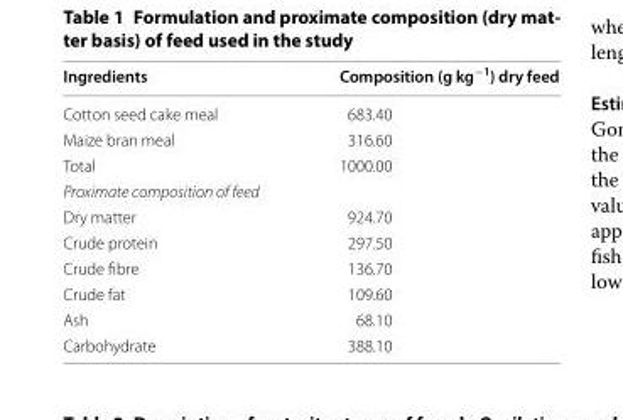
<table><thead><tr><td>Ingredients</td><td>Composition (g kg<sup>−1</sup>) dry feed</td></tr></thead><tbody><tr><td>Cotton seed cake meal</td><td>683.40</td></tr><tr><td>Maize bran meal</td><td>316.60</td></tr><tr><td>Total</td><td>1000.00</td></tr><tr><td colspan="2">Proximate composition of feed</td></tr><tr><td>Dry matter</td><td>924.70</td></tr><tr><td>Crude protein</td><td>297.50</td></tr><tr><td>Crude fibre</td><td>136.70</td></tr><tr><td>Crude fat</td><td>109.60</td></tr><tr><td>Ash</td><td>68.10</td></tr><tr><td>Carbohydrate</td><td>388.10</td></tr></tbody></table>